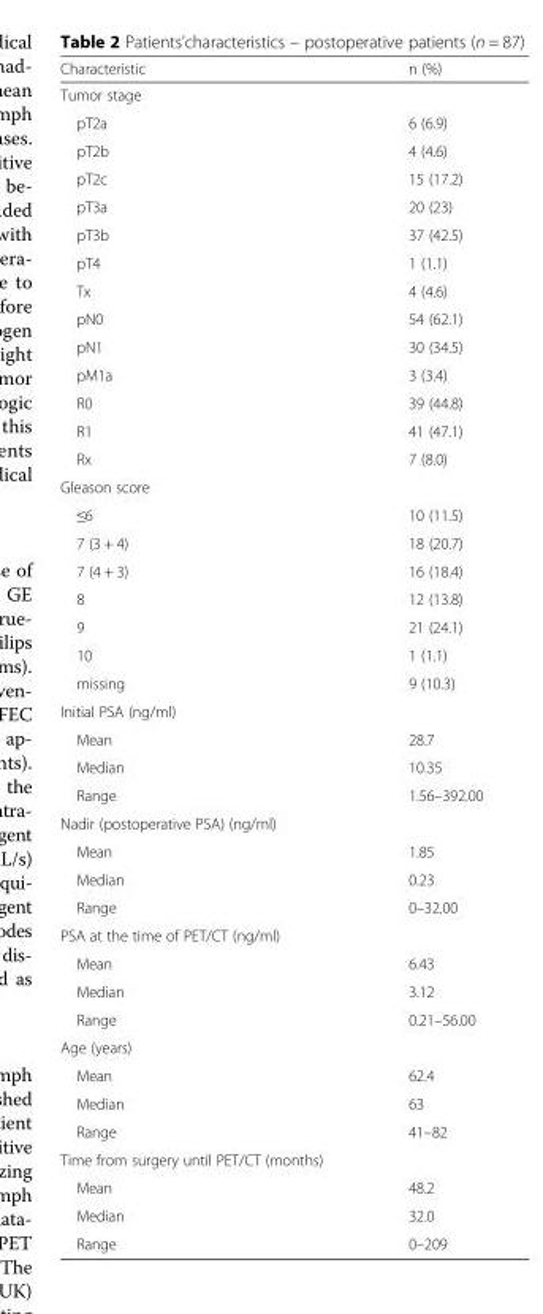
<table><thead><tr><td>Characteristic</td><td>n (%)</td></tr></thead><tbody><tr><td colspan="2">Tumor stage</td></tr><tr><td>pT2a</td><td>6 (6.9)</td></tr><tr><td>pT2b</td><td>4 (4.6)</td></tr><tr><td>pT2c</td><td>15 (17.2)</td></tr><tr><td>pT3a</td><td>20 (23)</td></tr><tr><td>pT3b</td><td>37 (42.5)</td></tr><tr><td>pT4</td><td>1 (1.1)</td></tr><tr><td>Tx</td><td>4 (4.6)</td></tr><tr><td>pN0</td><td>54 (62.1)</td></tr><tr><td>pN1</td><td>30 (34.5)</td></tr><tr><td>pM1a</td><td>3 (3.4)</td></tr><tr><td>R0</td><td>39 (44.8)</td></tr><tr><td>R1</td><td>41 (47.1)</td></tr><tr><td>Rx</td><td>7 (8.0)</td></tr><tr><td colspan="2">Gleason score</td></tr><tr><td>≤6</td><td>10 (11.5)</td></tr><tr><td>7 (3 + 4)</td><td>18 (20.7)</td></tr><tr><td>7 (4 + 3)</td><td>16 (18.4)</td></tr><tr><td>8</td><td>12 (13.8)</td></tr><tr><td>9</td><td>21 (24.1)</td></tr><tr><td>10</td><td>1 (1.1)</td></tr><tr><td>missing</td><td>9 (10.3)</td></tr><tr><td colspan="2">Initial PSA (ng/ml)</td></tr><tr><td>Mean</td><td>28.7</td></tr><tr><td>Median</td><td>10.35</td></tr><tr><td>Range</td><td>1.56–392.00</td></tr><tr><td colspan="2">Nadir (postoperative PSA) (ng/ml)</td></tr><tr><td>Mean</td><td>1.85</td></tr><tr><td>Median</td><td>0.23</td></tr><tr><td>Range</td><td>0–32.00</td></tr><tr><td colspan="2">PSA at the time of PET/CT (ng/ml)</td></tr><tr><td>Mean</td><td>6.43</td></tr><tr><td>Median</td><td>3.12</td></tr><tr><td>Range</td><td>0.21–56.00</td></tr><tr><td colspan="2">Age (years)</td></tr><tr><td>Mean</td><td>62.4</td></tr><tr><td>Median</td><td>63</td></tr><tr><td>Range</td><td>41–82</td></tr><tr><td colspan="2">Time from surgery until PET/CT (months)</td></tr><tr><td>Mean</td><td>48.2</td></tr><tr><td>Median</td><td>32.0</td></tr><tr><td>Range</td><td>0–209</td></tr></tbody></table>